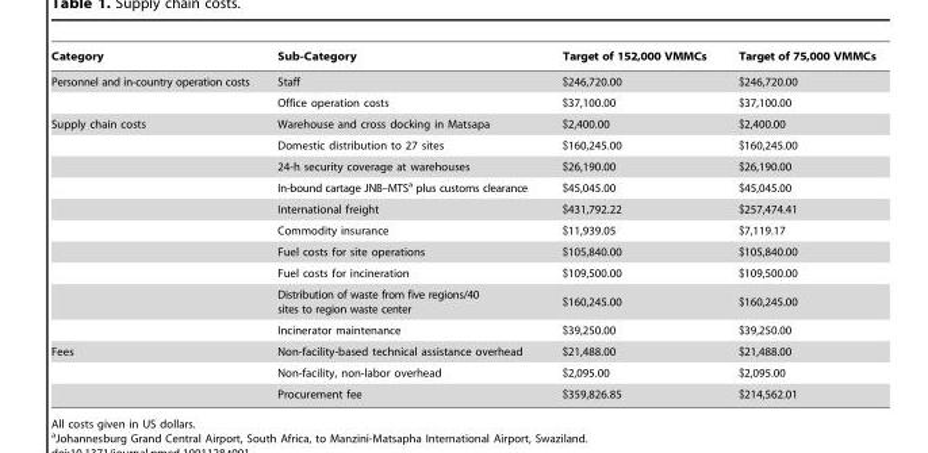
<table><thead><tr><td>Category</td><td>Sub-Category</td><td>Target of 152,000 VMMCs</td><td>Target of 75,000 VMMCs</td></tr></thead><tbody><tr><td rowspan="2">Personnel and in-country operation costs</td><td>Staff</td><td>$246,720.00</td><td>$246,720.00</td></tr><tr><td>Office operation costs</td><td>$37,100.00</td><td>$37,100.00</td></tr><tr><td rowspan="10">Supply chain costs</td><td>Warehouse and cross docking in Matsapa</td><td>$2,400.00</td><td>$2,400.00</td></tr><tr><td>Domestic distribution to 27 sites</td><td>$160,245.00</td><td>$160,245.00</td></tr><tr><td>24-h security coverage at warehouses</td><td>$26,190.00</td><td>$26,190.00</td></tr><tr><td>In-bound cartage JNB–MTS<sup>a</sup> plus customs clearance</td><td>$45,045.00</td><td>$45,045.00</td></tr><tr><td>International freight</td><td>$431,792.22</td><td>$257,474.41</td></tr><tr><td>Commodity insurance</td><td>$11,939.05</td><td>$7,119.17</td></tr><tr><td>Fuel costs for site operations</td><td>$105,840.00</td><td>$105,840.00</td></tr><tr><td>Fuel costs for incineration</td><td>$109,500.00</td><td>$109,500.00</td></tr><tr><td>Distribution of waste from five regions/40 sites to region waste center</td><td>$160,245.00</td><td>$160,245.00</td></tr><tr><td>Incinerator maintenance</td><td>$39,250.00</td><td>$39,250.00</td></tr><tr><td rowspan="3">Fees</td><td>Non-facility-based technical assistance overhead</td><td>$21,488.00</td><td>$21,488.00</td></tr><tr><td>Non-facility, non-labor overhead</td><td>$2,095.00</td><td>$2,095.00</td></tr><tr><td>Procurement fee</td><td>$359,826.85</td><td>$214,562.01</td></tr></tbody></table>